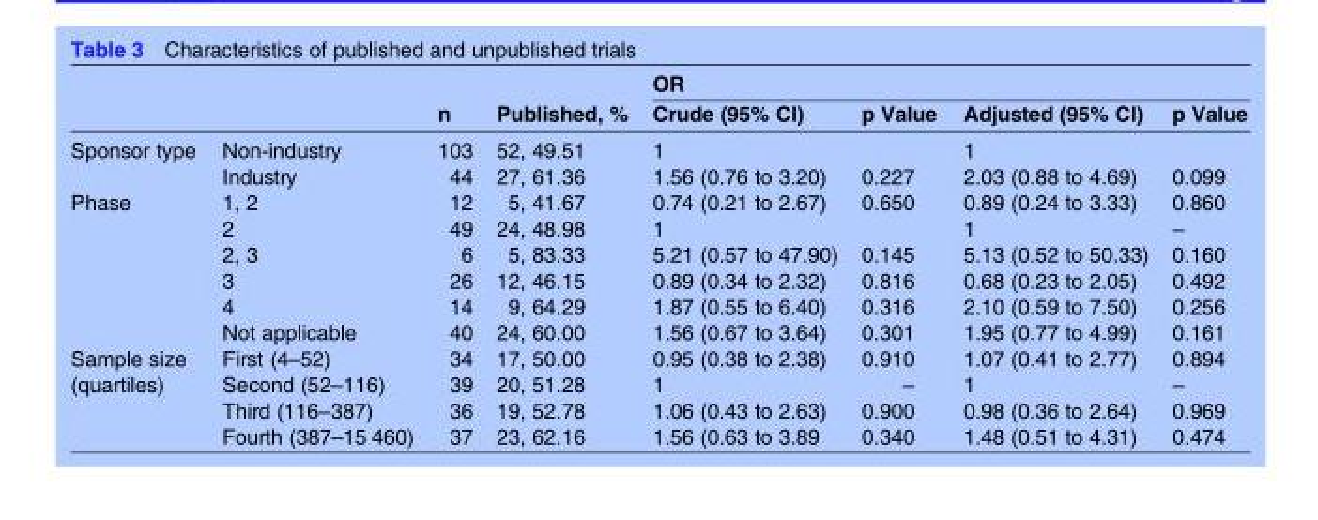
<table><thead><tr><td rowspan="2"></td><td rowspan="2"></td><td rowspan="2">n</td><td rowspan="2">Published, %</td><td colspan="4">OR</td></tr><tr><td>Crude (95% CI)</td><td>p Value</td><td>Adjusted (95% CI)</td><td>p Value</td></tr></thead><tbody><tr><td rowspan="2">Sponsor type</td><td>Non-industry</td><td>103</td><td>52, 49.51</td><td>1</td><td></td><td>1</td><td></td></tr><tr><td>Industry</td><td>44</td><td>27, 61.36</td><td>1.56 (0.76 to 3.20)</td><td>0.227</td><td>2.03 (0.88 to 4.69)</td><td>0.099</td></tr><tr><td rowspan="6">Phase</td><td>1, 2</td><td>12</td><td>5, 41.67</td><td>0.74 (0.21 to 2.67)</td><td>0.650</td><td>0.89 (0.24 to 3.33)</td><td>0.860</td></tr><tr><td>2</td><td>49</td><td>24, 48.98</td><td>1</td><td></td><td>1</td><td>–</td></tr><tr><td>2, 3</td><td>6</td><td>5, 83.33</td><td>5.21 (0.57 to 47.90)</td><td>0.145</td><td>5.13 (0.52 to 50.33)</td><td>0.160</td></tr><tr><td>3</td><td>26</td><td>12, 46.15</td><td>0.89 (0.34 to 2.32)</td><td>0.816</td><td>0.68 (0.23 to 2.05)</td><td>0.492</td></tr><tr><td>4</td><td>14</td><td>9, 64.29</td><td>1.87 (0.55 to 6.40)</td><td>0.316</td><td>2.10 (0.59 to 7.50)</td><td>0.256</td></tr><tr><td>Not applicable</td><td>40</td><td>24, 60.00</td><td>1.56 (0.67 to 3.64)</td><td>0.301</td><td>1.95 (0.77 to 4.99)</td><td>0.161</td></tr><tr><td rowspan="4">Sample size (quartiles)</td><td>First (4–52)</td><td>34</td><td>17, 50.00</td><td>0.95 (0.38 to 2.38)</td><td>0.910</td><td>1.07 (0.41 to 2.77)</td><td>0.894</td></tr><tr><td>Second (52–116)</td><td>39</td><td>20, 51.28</td><td>1</td><td>–</td><td>1</td><td>–</td></tr><tr><td>Third (116–387)</td><td>36</td><td>19, 52.78</td><td>1.06 (0.43 to 2.63)</td><td>0.900</td><td>0.98 (0.36 to 2.64)</td><td>0.969</td></tr><tr><td>Fourth (387–15 460)</td><td>37</td><td>23, 62.16</td><td>1.56 (0.63 to 3.89</td><td>0.340</td><td>1.48 (0.51 to 4.31)</td><td>0.474</td></tr></tbody></table>